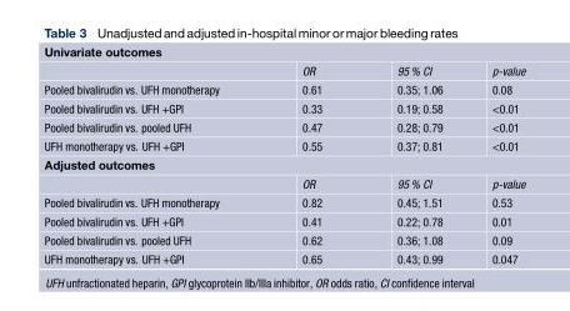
<table><tbody><tr><td colspan="4">Univariate outcomes</td></tr><tr><td></td><td>OR</td><td>95 % CI</td><td>p-value</td></tr><tr><td>Pooled bivalirudin vs. UFH monotherapy</td><td>0.61</td><td>0.35; 1.06</td><td>0.08</td></tr><tr><td>Pooled bivalirudin vs. UFH +GPI</td><td>0.33</td><td>0.19; 0.58</td><td>&lt;0.01</td></tr><tr><td>Pooled bivalirudin vs. pooled UFH</td><td>0.47</td><td>0.28; 0.79</td><td>&lt;0.01</td></tr><tr><td>UFH monotherapy vs. UFH +GPI</td><td>0.55</td><td>0.37; 0.81</td><td>&lt;0.01</td></tr><tr><td colspan="4">Adjusted outcomes</td></tr><tr><td></td><td>OR</td><td>95 % CI</td><td>p-value</td></tr><tr><td>Pooled bivalirudin vs. UFH monotherapy</td><td>0.82</td><td>0.45; 1.51</td><td>0.53</td></tr><tr><td>Pooled bivalirudin vs. UFH +GPI</td><td>0.41</td><td>0.22; 0.78</td><td>0.01</td></tr><tr><td>Pooled bivalirudin vs. pooled UFH</td><td>0.62</td><td>0.36; 1.08</td><td>0.09</td></tr><tr><td>UFH monotherapy vs. UFH +GPI</td><td>0.65</td><td>0.43; 0.99</td><td>0.047</td></tr></tbody></table>